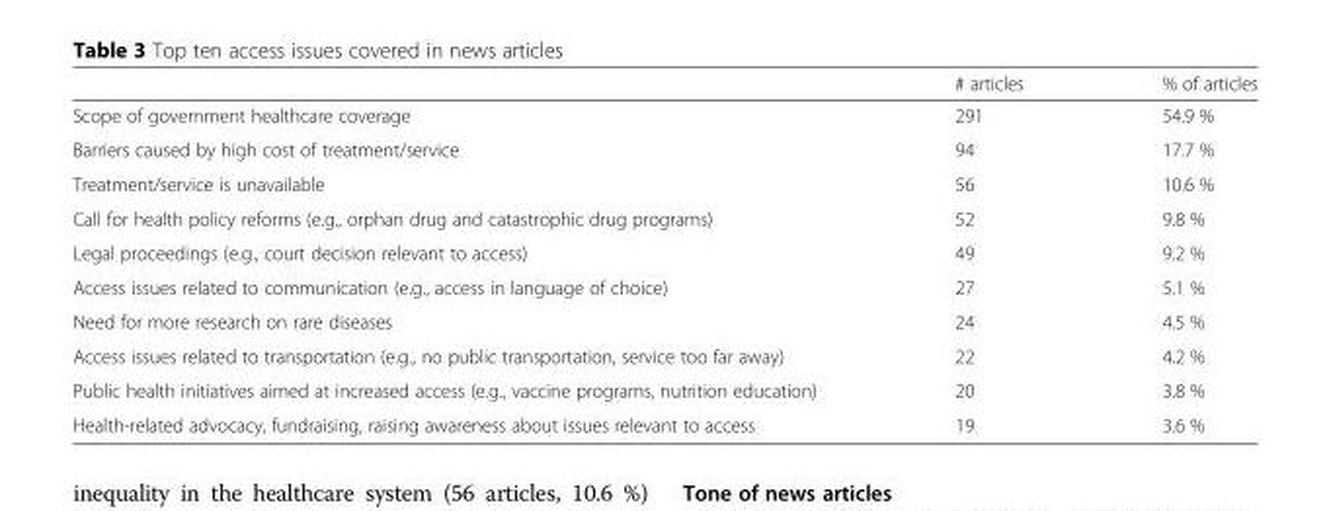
<table><thead><tr><td></td><td># articles</td><td>% of articles</td></tr></thead><tbody><tr><td>Scope of government healthcare coverage</td><td>291</td><td>54.9 %</td></tr><tr><td>Barriers caused by high cost of treatment/service</td><td>94</td><td>17.7 %</td></tr><tr><td>Treatment/service is unavailable</td><td>56</td><td>10.6 %</td></tr><tr><td>Call for health policy reforms (e.g., orphan drug and catastrophic drug programs)</td><td>52</td><td>9.8 %</td></tr><tr><td>Legal proceedings (e.g., court decision relevant to access)</td><td>49</td><td>9.2 %</td></tr><tr><td>Access issues related to communication (e.g., access in language of choice)</td><td>27</td><td>5.1 %</td></tr><tr><td>Need for more research on rare diseases</td><td>24</td><td>4.5 %</td></tr><tr><td>Access issues related to transportation (e.g., no public transportation, service too far away)</td><td>22</td><td>4.2 %</td></tr><tr><td>Public health initiatives aimed at increased access (e.g., vaccine programs, nutrition education)</td><td>20</td><td>3.8 %</td></tr><tr><td>Health-related advocacy, fundraising, raising awareness about issues relevant to access</td><td>19</td><td>3.6 %</td></tr></tbody></table>